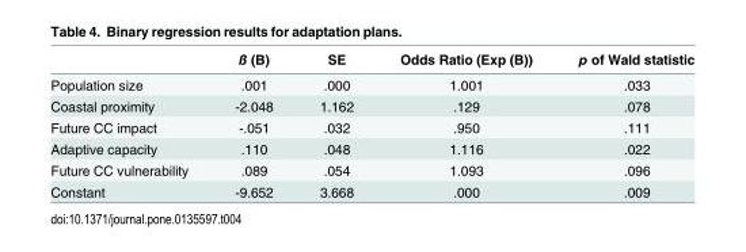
<table><thead><tr><td></td><td>ß (B)</td><td>SE</td><td>Odds Ratio (Exp (B))</td><td>p of Wald statistic</td></tr></thead><tbody><tr><td>Population size</td><td>.001</td><td>.000</td><td>1.001</td><td>.033</td></tr><tr><td>Coastal proximity</td><td>-2.048</td><td>1.162</td><td>.129</td><td>.078</td></tr><tr><td>Future CC impact</td><td>-.051</td><td>.032</td><td>.950</td><td>.111</td></tr><tr><td>Adaptive capacity</td><td>.110</td><td>.048</td><td>1.116</td><td>.022</td></tr><tr><td>Future CC vulnerability</td><td>.089</td><td>.054</td><td>1.093</td><td>.096</td></tr><tr><td>Constant</td><td>-9.652</td><td>3.668</td><td>.000</td><td>.009</td></tr></tbody></table>